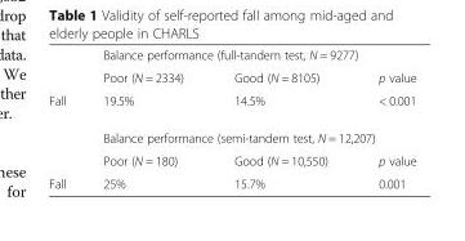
<table><thead><tr><td rowspan="2"></td><td colspan="3">Balance performance (full-tandem test, N = 9277)</td></tr><tr><td>Poor (N = 2334)</td><td>Good (N = 8105)</td><td>p value</td></tr></thead><tbody><tr><td rowspan="3">Fall</td><td>19.5%</td><td>14.5%</td><td>&lt; 0.001</td></tr><tr><td colspan="3">Balance performance (semi-tandem test, N = 12,207)</td></tr><tr><td>Poor (N = 180)</td><td>Good (N = 10,550)</td><td>p value</td></tr><tr><td>Fall</td><td>25%</td><td>15.7%</td><td>0.001</td></tr></tbody></table>